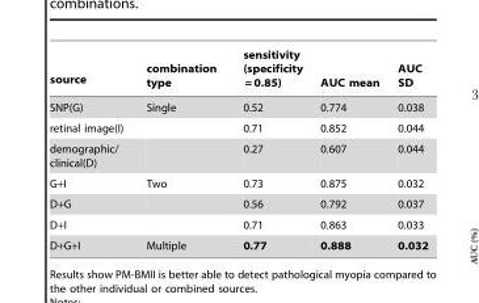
<table><thead><tr><td>source</td><td>combination type</td><td>sensitivity (specificity = 0.85)</td><td>AUC mean</td><td>AUC SD</td></tr></thead><tbody><tr><td>SNP(G)</td><td>Single</td><td>0.52</td><td>0.774</td><td>0.038</td></tr><tr><td>retinal image(I)</td><td></td><td>0.71</td><td>0.852</td><td>0.044</td></tr><tr><td>demographic/ clinical(D)</td><td></td><td>0.27</td><td>0.607</td><td>0.044</td></tr><tr><td>G+I</td><td>Two</td><td>0.73</td><td>0.875</td><td>0.032</td></tr><tr><td>D+G</td><td></td><td>0.56</td><td>0.792</td><td>0.037</td></tr><tr><td>D+I</td><td></td><td>0.71</td><td>0.863</td><td>0.033</td></tr><tr><td>D+G+I</td><td>Multiple</td><td>0.77</td><td>0.888</td><td>0.032</td></tr></tbody></table>